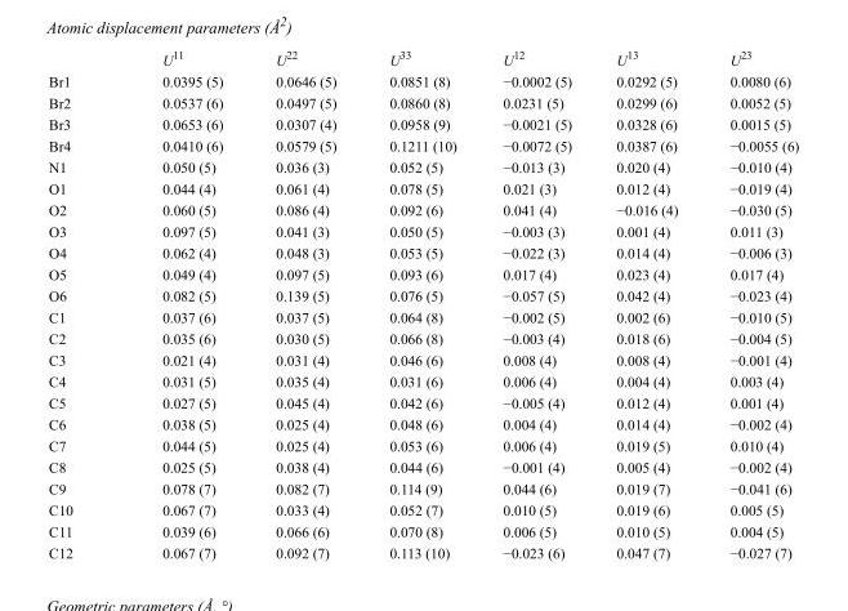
<table><thead><tr><td></td><td>U<sup>11</sup></td><td>U<sup>22</sup></td><td>U<sup>33</sup></td><td>U<sup>12</sup></td><td>U<sup>13</sup></td><td>U<sup>23</sup></td></tr></thead><tbody><tr><td>Br1</td><td>0.0395 (5)</td><td>0.0646 (5)</td><td>0.0851 (8)</td><td>−0.0002 (5)</td><td>0.0292 (5)</td><td>0.0080 (6)</td></tr><tr><td>Br2</td><td>0.0537 (6)</td><td>0.0497 (5)</td><td>0.0860 (8)</td><td>0.0231 (5)</td><td>0.0299 (6)</td><td>0.0052 (5)</td></tr><tr><td>Br3</td><td>0.0653 (6)</td><td>0.0307 (4)</td><td>0.0958 (9)</td><td>−0.0021 (5)</td><td>0.0328 (6)</td><td>0.0015 (5)</td></tr><tr><td>Br4</td><td>0.0410 (6)</td><td>0.0579 (5)</td><td>0.1211 (10)</td><td>−0.0072 (5)</td><td>0.0387 (6)</td><td>−0.0055 (6)</td></tr><tr><td>N1</td><td>0.050 (5)</td><td>0.036 (3)</td><td>0.052 (5)</td><td>−0.013 (3)</td><td>0.020 (4)</td><td>−0.010 (4)</td></tr><tr><td>O1</td><td>0.044 (4)</td><td>0.061 (4)</td><td>0.078 (5)</td><td>0.021 (3)</td><td>0.012 (4)</td><td>−0.019 (4)</td></tr><tr><td>O2</td><td>0.060 (5)</td><td>0.086 (4)</td><td>0.092 (6)</td><td>0.041 (4)</td><td>−0.016 (4)</td><td>−0.030 (5)</td></tr><tr><td>O3</td><td>0.097 (5)</td><td>0.041 (3)</td><td>0.050 (5)</td><td>−0.003 (3)</td><td>0.001 (4)</td><td>0.011 (3)</td></tr><tr><td>O4</td><td>0.062 (4)</td><td>0.048 (3)</td><td>0.053 (5)</td><td>−0.022 (3)</td><td>0.014 (4)</td><td>−0.006 (3)</td></tr><tr><td>O5</td><td>0.049 (4)</td><td>0.097 (5)</td><td>0.093 (6)</td><td>0.017 (4)</td><td>0.023 (4)</td><td>0.017 (4)</td></tr><tr><td>O6</td><td>0.082 (5)</td><td>0.139 (5)</td><td>0.076 (5)</td><td>−0.057 (5)</td><td>0.042 (4)</td><td>−0.023 (4)</td></tr><tr><td>C1</td><td>0.037 (6)</td><td>0.037 (5)</td><td>0.064 (8)</td><td>−0.002 (5)</td><td>0.002 (6)</td><td>−0.010 (5)</td></tr><tr><td>C2</td><td>0.035 (6)</td><td>0.030 (5)</td><td>0.066 (8)</td><td>−0.003 (4)</td><td>0.018 (6)</td><td>−0.004 (5)</td></tr><tr><td>C3</td><td>0.021 (4)</td><td>0.031 (4)</td><td>0.046 (6)</td><td>0.008 (4)</td><td>0.008 (4)</td><td>−0.001 (4)</td></tr><tr><td>C4</td><td>0.031 (5)</td><td>0.035 (4)</td><td>0.031 (6)</td><td>0.006 (4)</td><td>0.004 (4)</td><td>0.003 (4)</td></tr><tr><td>C5</td><td>0.027 (5)</td><td>0.045 (4)</td><td>0.042 (6)</td><td>−0.005 (4)</td><td>0.012 (4)</td><td>0.001 (4)</td></tr><tr><td>C6</td><td>0.038 (5)</td><td>0.025 (4)</td><td>0.048 (6)</td><td>0.004 (4)</td><td>0.014 (4)</td><td>−0.002 (4)</td></tr><tr><td>C7</td><td>0.044 (5)</td><td>0.025 (4)</td><td>0.053 (6)</td><td>0.006 (4)</td><td>0.019 (5)</td><td>0.010 (4)</td></tr><tr><td>C8</td><td>0.025 (5)</td><td>0.038 (4)</td><td>0.044 (6)</td><td>−0.001 (4)</td><td>0.005 (4)</td><td>−0.002 (4)</td></tr><tr><td>C9</td><td>0.078 (7)</td><td>0.082 (7)</td><td>0.114 (9)</td><td>0.044 (6)</td><td>0.019 (7)</td><td>−0.041 (6)</td></tr><tr><td>C10</td><td>0.067 (7)</td><td>0.033 (4)</td><td>0.052 (7)</td><td>0.010 (5)</td><td>0.019 (6)</td><td>0.005 (5)</td></tr><tr><td>C11</td><td>0.039 (6)</td><td>0.066 (6)</td><td>0.070 (8)</td><td>0.006 (5)</td><td>0.010 (5)</td><td>0.004 (5)</td></tr><tr><td>C12</td><td>0.067 (7)</td><td>0.092 (7)</td><td>0.113 (10)</td><td>−0.023 (6)</td><td>0.047 (7)</td><td>−0.027 (7)</td></tr></tbody></table>